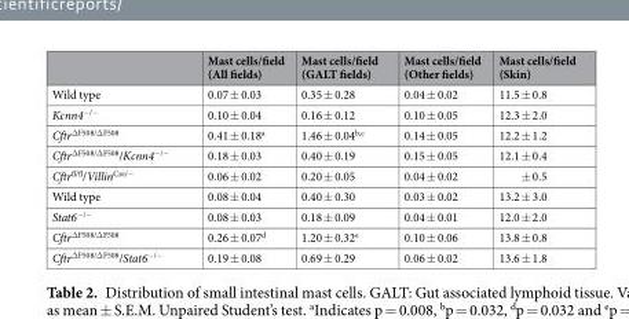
<table><thead><tr><td></td><td>Mast cells/field (All fields)</td><td>Mast cells/field (GALT fields)</td><td>Mast cells/field (Other fields)</td><td>Mast cells/field (Skin)</td></tr></thead><tbody><tr><td>Wild type</td><td>0.07 ± 0.03</td><td>0.35 ± 0.28</td><td>0.04 ± 0.02</td><td>11.5 ± 0.8</td></tr><tr><td>Kcnn4<sup>−/−</sup></td><td>0.10 ± 0.04</td><td>0.16 ± 0.12</td><td>0.10 ± 0.05</td><td>12.3 ± 2.0</td></tr><tr><td>Cftr<sup>ΔF508/ΔF508</sup></td><td>0.41 ± 0.18<sup>a</sup></td><td>1.46 ± 0.04<sup>b,c</sup></td><td>0.14 ± 0.05</td><td>12.2 ± 1.2</td></tr><tr><td>Cftr<sup>ΔF508/ΔF508</sup>/Kcnn4<sup>−/−</sup></td><td>0.18 ± 0.03</td><td>0.40 ± 0.19</td><td>0.15 ± 0.05</td><td>12.1 ± 0.4</td></tr><tr><td>Cftr<sup>fl/fl</sup>/Villin<sup>Cre/−</sup></td><td>0.06 ± 0.02</td><td>0.20 ± 0.05</td><td>0.04 ± 0.02</td><td>± 0.5</td></tr><tr><td>Wild type</td><td>0.08 ± 0.04</td><td>0.40 ± 0.30</td><td>0.03 ± 0.02</td><td>13.2 ± 3.0</td></tr><tr><td>Stat6<sup>−/−</sup></td><td>0.08 ± 0.03</td><td>0.18 ± 0.09</td><td>0.04 ± 0.01</td><td>12.0 ± 2.0</td></tr><tr><td>Cftr<sup>ΔF508/ΔF508</sup></td><td>0.26 ± 0.07<sup>d</sup></td><td>1.20 ± 0.32<sup>e</sup></td><td>0.10 ± 0.06</td><td>13.8 ± 0.8</td></tr><tr><td>Cftr<sup>ΔF508/ΔF508</sup>/Stat6<sup>−/−</sup></td><td>0.19 ± 0.08</td><td>0.69 ± 0.29</td><td>0.06 ± 0.02</td><td>13.6 ± 1.8</td></tr></tbody></table>